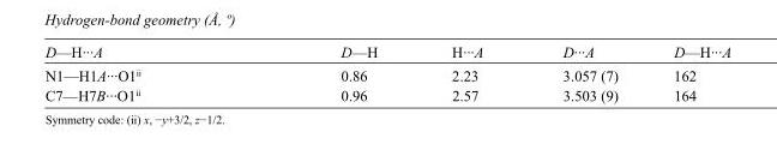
<table><tbody><tr><td>D—H···A</td><td>D—H</td><td>H···A</td><td>D···A</td><td>D—H···A</td></tr><tr><td>N1—H1A···O1<sup>ii</sup></td><td>0.86</td><td>2.23</td><td>3.057 (7)</td><td>162</td></tr><tr><td>C7—H7B···O1<sup>ii</sup></td><td>0.96</td><td>2.57</td><td>3.503 (9)</td><td>164</td></tr></tbody></table>